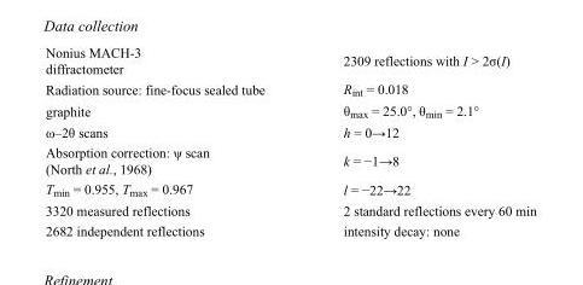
<table><tbody><tr><td>Nonius MACH-3 diffractometer</td><td>2309 reflections with I &gt; 2σ(I)</td></tr><tr><td>Radiation source: fine-focus sealed tube</td><td>R<sub>int</sub> = 0.018</td></tr><tr><td>graphite</td><td>θ<sub>max</sub> = 25.0°, θ<sub>min</sub> = 2.1°</td></tr><tr><td>ω–2θ scans</td><td>h = 0→12</td></tr><tr><td>Absorption correction: ψ scan (North et al., 1968)</td><td>k = −1→8</td></tr><tr><td>T<sub>min</sub> = 0.955, T<sub>max</sub> = 0.967</td><td>l = −22→22</td></tr><tr><td>3320 measured reflections</td><td>2 standard reflections every 60 min</td></tr><tr><td>2682 independent reflections</td><td>intensity decay: none</td></tr></tbody></table>